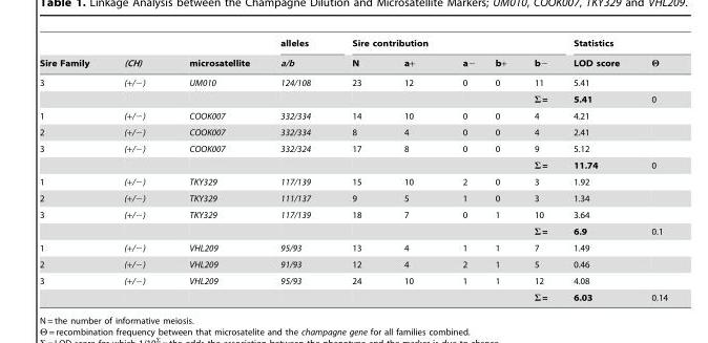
<table><thead><tr><td rowspan="2">Sire Family</td><td rowspan="2">(CH)</td><td rowspan="2">microsatellite</td><td rowspan="2">alleles a/b</td><td colspan="5">Sire contribution</td><td colspan="2">Statistics</td></tr><tr><td>N</td><td>a+</td><td>a−</td><td>b+</td><td>b−</td><td>LOD score</td><td>Θ</td></tr></thead><tbody><tr><td rowspan="2">3</td><td>(+/−)</td><td>UM010</td><td>124/108</td><td>23</td><td>12</td><td>0</td><td>0</td><td>11</td><td>5.41</td><td></td></tr><tr><td></td><td></td><td></td><td></td><td></td><td></td><td></td><td>Σ =</td><td>5.41</td><td>0</td></tr><tr><td>1</td><td>(+/−)</td><td>COOK007</td><td>332/334</td><td>14</td><td>10</td><td>0</td><td>0</td><td>4</td><td>4.21</td><td></td></tr><tr><td>2</td><td>(+/−)</td><td>COOK007</td><td>332/334</td><td>8</td><td>4</td><td>0</td><td>0</td><td>4</td><td>2.41</td><td></td></tr><tr><td rowspan="2">3</td><td>(+/−)</td><td>COOK007</td><td>332/324</td><td>17</td><td>8</td><td>0</td><td>0</td><td>9</td><td>5.12</td><td></td></tr><tr><td></td><td></td><td></td><td></td><td></td><td></td><td></td><td>Σ =</td><td>11.74</td><td>0</td></tr><tr><td>1</td><td>(+/−)</td><td>TKY329</td><td>117/139</td><td>15</td><td>10</td><td>2</td><td>0</td><td>3</td><td>1.92</td><td></td></tr><tr><td>2</td><td>(+/−)</td><td>TKY329</td><td>111/137</td><td>9</td><td>5</td><td>1</td><td>0</td><td>3</td><td>1.34</td><td></td></tr><tr><td rowspan="2">3</td><td>(+/−)</td><td>TKY329</td><td>117/139</td><td>18</td><td>7</td><td>0</td><td>1</td><td>10</td><td>3.64</td><td></td></tr><tr><td></td><td></td><td></td><td></td><td></td><td></td><td></td><td>Σ =</td><td>6.9</td><td>0.1</td></tr><tr><td>1</td><td>(+/−)</td><td>VHL209</td><td>95/93</td><td>13</td><td>4</td><td>1</td><td>1</td><td>7</td><td>1.49</td><td></td></tr><tr><td>2</td><td>(+/−)</td><td>VHL209</td><td>91/93</td><td>12</td><td>4</td><td>2</td><td>1</td><td>5</td><td>0.46</td><td></td></tr><tr><td rowspan="2">3</td><td>(+/−)</td><td>VHL209</td><td>95/93</td><td>24</td><td>10</td><td>1</td><td>1</td><td>12</td><td>4.08</td><td></td></tr><tr><td></td><td></td><td></td><td></td><td></td><td></td><td></td><td>Σ =</td><td>6.03</td><td>0.14</td></tr></tbody></table>